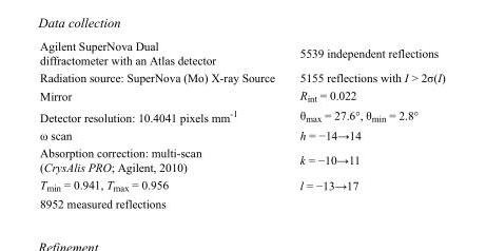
<table><tbody><tr><td>Agilent SuperNova Dual diffractometer with an Atlas detector</td><td>5539 independent reflections</td></tr><tr><td>Radiation source: SuperNova (Mo) X-ray Source</td><td>5155 reflections with I &gt; 2σ(I)</td></tr><tr><td>Mirror</td><td>R<sub>int</sub> = 0.022</td></tr><tr><td>Detector resolution: 10.4041 pixels mm<sup>-1</sup></td><td>θ<sub>max</sub> = 27.6°, θ<sub>min</sub> = 2.8°</td></tr><tr><td>ω scan</td><td>h = −14→14</td></tr><tr><td>Absorption correction: multi-scan (CrysAlis PRO; Agilent, 2010)</td><td>k = −10→11</td></tr><tr><td>T<sub>min</sub> = 0.941, T<sub>max</sub> = 0.956</td><td>l = −13→17</td></tr><tr><td>8952 measured reflections</td><td></td></tr></tbody></table>